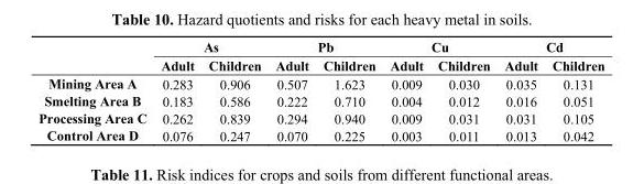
<table><thead><tr><td rowspan="2"></td><td colspan="2">As</td><td colspan="2">Pb</td><td colspan="2">Cu</td><td colspan="2">Cd</td></tr><tr><td>Adult</td><td>Children</td><td>Adult</td><td>Children</td><td>Adult</td><td>Children</td><td>Adult</td><td>Children</td></tr></thead><tbody><tr><td>Mining Area A</td><td>0.283</td><td>0.906</td><td>0.507</td><td>1.623</td><td>0.009</td><td>0.030</td><td>0.035</td><td>0.131</td></tr><tr><td>Smelting Area B</td><td>0.183</td><td>0.586</td><td>0.222</td><td>0.710</td><td>0.004</td><td>0.012</td><td>0.016</td><td>0.051</td></tr><tr><td>Processing Area C</td><td>0.262</td><td>0.839</td><td>0.294</td><td>0.940</td><td>0.009</td><td>0.031</td><td>0.031</td><td>0.105</td></tr><tr><td>Control Area D</td><td>0.076</td><td>0.247</td><td>0.070</td><td>0.225</td><td>0.003</td><td>0.011</td><td>0.013</td><td>0.042</td></tr></tbody></table>